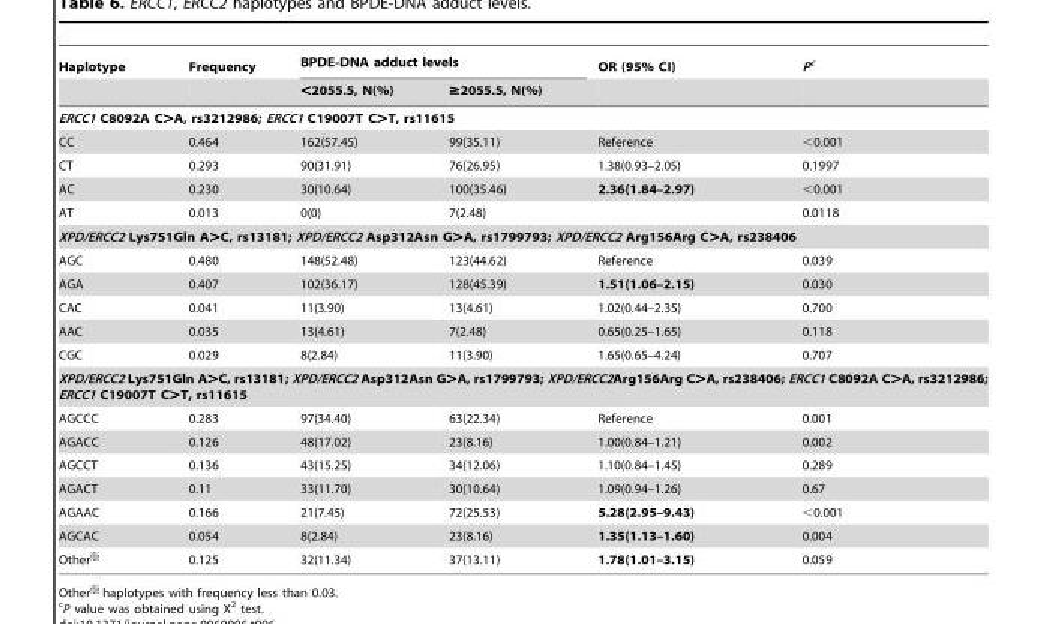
<table><thead><tr><td rowspan="2">Haplotype</td><td rowspan="2">Frequency</td><td colspan="2">BPDE-DNA adduct levels</td><td rowspan="2">OR (95% CI)</td><td rowspan="2">Pc</td></tr><tr><td>&lt;2055.5, N(%)</td><td>≥2055.5, N(%)</td></tr></thead><tbody><tr><td colspan="6">ERCC1 C8092A C&gt;A, rs3212986; ERCC1 C19007T C&gt;T, rs11615</td></tr><tr><td>CC</td><td>0.464</td><td>162(57.45)</td><td>99(35.11)</td><td>Reference</td><td>&lt;0.001</td></tr><tr><td>CT</td><td>0.293</td><td>90(31.91)</td><td>76(26.95)</td><td>1.38(0.93–2.05)</td><td>0.1997</td></tr><tr><td>AC</td><td>0.230</td><td>30(10.64)</td><td>100(35.46)</td><td>2.36(1.84–2.97)</td><td>&lt;0.001</td></tr><tr><td>AT</td><td>0.013</td><td>0(0)</td><td>7(2.48)</td><td></td><td>0.0118</td></tr><tr><td colspan="6">XPD/ERCC2 Lys751Gln A&gt;C, rs13181; XPD/ERCC2 Asp312Asn G&gt;A, rs1799793; XPD/ERCC2 Arg156Arg C&gt;A, rs238406</td></tr><tr><td>AGC</td><td>0.480</td><td>148(52.48)</td><td>123(44.62)</td><td>Reference</td><td>0.039</td></tr><tr><td>AGA</td><td>0.407</td><td>102(36.17)</td><td>128(45.39)</td><td>1.51(1.06–2.15)</td><td>0.030</td></tr><tr><td>CAC</td><td>0.041</td><td>11(3.90)</td><td>13(4.61)</td><td>1.02(0.44–2.35)</td><td>0.700</td></tr><tr><td>AAC</td><td>0.035</td><td>13(4.61)</td><td>7(2.48)</td><td>0.65(0.25–1.65)</td><td>0.118</td></tr><tr><td>CGC</td><td>0.029</td><td>8(2.84)</td><td>11(3.90)</td><td>1.65(0.65–4.24)</td><td>0.707</td></tr><tr><td colspan="6">XPD/ERCC2 Lys751Gln A&gt;C, rs13181; XPD/ERCC2 Asp312Asn G&gt;A, rs1799793; XPD/ERCC2Arg156Arg C&gt;A, rs238406; ERCC1 C8092A C&gt;A, rs3212986; ERCC1 C19007T C&gt;T, rs11615</td></tr><tr><td>AGCCC</td><td>0.283</td><td>97(34.40)</td><td>63(22.34)</td><td>Reference</td><td>0.001</td></tr><tr><td>AGACC</td><td>0.126</td><td>48(17.02)</td><td>23(8.16)</td><td>1.00(0.84–1.21)</td><td>0.002</td></tr><tr><td>AGCCT</td><td>0.136</td><td>43(15.25)</td><td>34(12.06)</td><td>1.10(0.84–1.45)</td><td>0.289</td></tr><tr><td>AGACT</td><td>0.11</td><td>33(11.70)</td><td>30(10.64)</td><td>1.09(0.94–1.26)</td><td>0.67</td></tr><tr><td>AGAAC</td><td>0.166</td><td>21(7.45)</td><td>72(25.53)</td><td>5.28(2.95–9.43)</td><td>&lt;0.001</td></tr><tr><td>AGCAC</td><td>0.054</td><td>8(2.84)</td><td>23(8.16)</td><td>1.35(1.13–1.60)</td><td>0.004</td></tr><tr><td>Other</td><td>0.125</td><td>32(11.34)</td><td>37(13.11)</td><td>1.78(1.01–3.15)</td><td>0.059</td></tr></tbody></table>